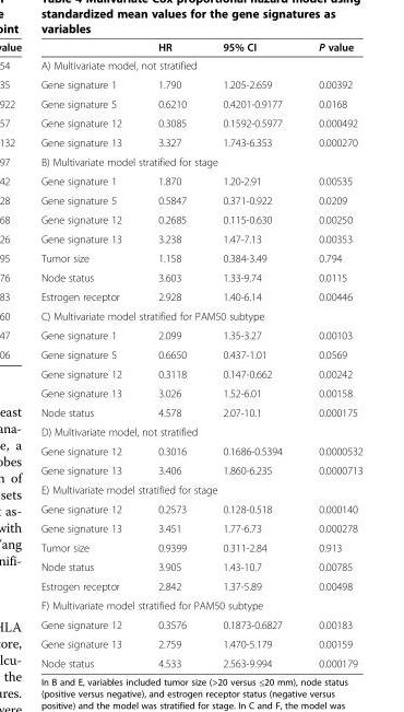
<table><thead><tr><td></td><td>HR</td><td>95% CI</td><td>P value</td></tr></thead><tbody><tr><td colspan="4">A) Multivariate model, not stratified</td></tr><tr><td>Gene signature 1</td><td>1.790</td><td>1.205-2.659</td><td>0.00392</td></tr><tr><td>Gene signature 5</td><td>0.6210</td><td>0.4201-0.9177</td><td>0.0168</td></tr><tr><td>Gene signature 12</td><td>0.3085</td><td>0.1592-0.5977</td><td>0.000492</td></tr><tr><td>Gene signature 13</td><td>3.327</td><td>1.743-6.353</td><td>0.000270</td></tr><tr><td colspan="4">B) Multivariate model stratified for stage</td></tr><tr><td>Gene signature 1</td><td>1.870</td><td>1.20-2.91</td><td>0.00535</td></tr><tr><td>Gene signature 5</td><td>0.5847</td><td>0.371-0.922</td><td>0.0209</td></tr><tr><td>Gene signature 12</td><td>0.2685</td><td>0.115-0.630</td><td>0.00250</td></tr><tr><td>Gene signature 13</td><td>3.238</td><td>1.47-7.13</td><td>0.00353</td></tr><tr><td>Tumor size</td><td>1.158</td><td>0.384-3.49</td><td>0.794</td></tr><tr><td>Node status</td><td>3.603</td><td>1.33-9.74</td><td>0.0115</td></tr><tr><td>Estrogen receptor</td><td>2.928</td><td>1.40-6.14</td><td>0.00446</td></tr><tr><td colspan="4">C) Multivariate model stratified for PAM50 subtype</td></tr><tr><td>Gene signature 1</td><td>2.099</td><td>1.35-3.27</td><td>0.00103</td></tr><tr><td>Gene signature 5</td><td>0.6650</td><td>0.437-1.01</td><td>0.0569</td></tr><tr><td>Gene signature 12</td><td>0.3118</td><td>0.147-0.662</td><td>0.00242</td></tr><tr><td>Gene signature 13</td><td>3.026</td><td>1.52-6.01</td><td>0.00158</td></tr><tr><td>Node status</td><td>4.578</td><td>2.07-10.1</td><td>0.000175</td></tr><tr><td colspan="4">D) Multivariate model, not stratified</td></tr><tr><td>Gene signature 12</td><td>0.3016</td><td>0.1686-0.5394</td><td>0.0000532</td></tr><tr><td>Gene signature 13</td><td>3.406</td><td>1.860-6.235</td><td>0.0000713</td></tr><tr><td colspan="4">E) Multivariate model stratified for stage</td></tr><tr><td>Gene signature 12</td><td>0.2573</td><td>0.128-0.518</td><td>0.000140</td></tr><tr><td>Gene signature 13</td><td>3.451</td><td>1.77-6.73</td><td>0.000278</td></tr><tr><td>Tumor size</td><td>0.9399</td><td>0.311-2.84</td><td>0.913</td></tr><tr><td>Node status</td><td>3.905</td><td>1.43-10.7</td><td>0.00785</td></tr><tr><td>Estrogen receptor</td><td>2.842</td><td>1.37-5.89</td><td>0.00498</td></tr><tr><td colspan="4">F) Multivariate model stratified for PAM50 subtype</td></tr><tr><td>Gene signature 12</td><td>0.3576</td><td>0.1873-0.6827</td><td>0.00183</td></tr><tr><td>Gene signature 13</td><td>2.759</td><td>1.470-5.179</td><td>0.00159</td></tr><tr><td>Node status</td><td>4.533</td><td>2.563-9.994</td><td>0.000179</td></tr></tbody></table>